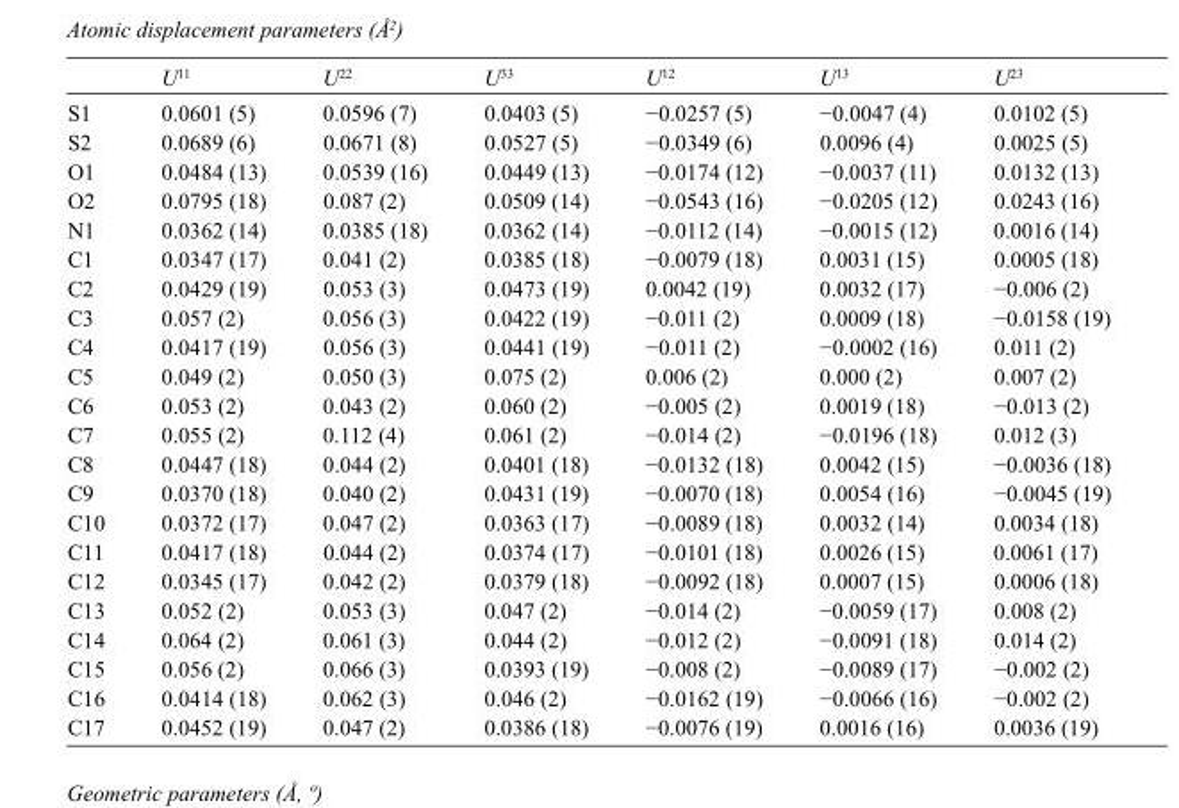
<table><thead><tr><td></td><td>U<sup>11</sup></td><td>U<sup>22</sup></td><td>U<sup>33</sup></td><td>U<sup>12</sup></td><td>U<sup>13</sup></td><td>U<sup>23</sup></td></tr></thead><tbody><tr><td>S1</td><td>0.0601 (5)</td><td>0.0596 (7)</td><td>0.0403 (5)</td><td>−0.0257 (5)</td><td>−0.0047 (4)</td><td>0.0102 (5)</td></tr><tr><td>S2</td><td>0.0689 (6)</td><td>0.0671 (8)</td><td>0.0527 (5)</td><td>−0.0349 (6)</td><td>0.0096 (4)</td><td>0.0025 (5)</td></tr><tr><td>O1</td><td>0.0484 (13)</td><td>0.0539 (16)</td><td>0.0449 (13)</td><td>−0.0174 (12)</td><td>−0.0037 (11)</td><td>0.0132 (13)</td></tr><tr><td>O2</td><td>0.0795 (18)</td><td>0.087 (2)</td><td>0.0509 (14)</td><td>−0.0543 (16)</td><td>−0.0205 (12)</td><td>0.0243 (16)</td></tr><tr><td>N1</td><td>0.0362 (14)</td><td>0.0385 (18)</td><td>0.0362 (14)</td><td>−0.0112 (14)</td><td>−0.0015 (12)</td><td>0.0016 (14)</td></tr><tr><td>C1</td><td>0.0347 (17)</td><td>0.041 (2)</td><td>0.0385 (18)</td><td>−0.0079 (18)</td><td>0.0031 (15)</td><td>0.0005 (18)</td></tr><tr><td>C2</td><td>0.0429 (19)</td><td>0.053 (3)</td><td>0.0473 (19)</td><td>0.0042 (19)</td><td>0.0032 (17)</td><td>−0.006 (2)</td></tr><tr><td>C3</td><td>0.057 (2)</td><td>0.056 (3)</td><td>0.0422 (19)</td><td>−0.011 (2)</td><td>0.0009 (18)</td><td>−0.0158 (19)</td></tr><tr><td>C4</td><td>0.0417 (19)</td><td>0.056 (3)</td><td>0.0441 (19)</td><td>−0.011 (2)</td><td>−0.0002 (16)</td><td>0.011 (2)</td></tr><tr><td>C5</td><td>0.049 (2)</td><td>0.050 (3)</td><td>0.075 (2)</td><td>0.006 (2)</td><td>0.000 (2)</td><td>0.007 (2)</td></tr><tr><td>C6</td><td>0.053 (2)</td><td>0.043 (2)</td><td>0.060 (2)</td><td>−0.005 (2)</td><td>0.0019 (18)</td><td>−0.013 (2)</td></tr><tr><td>C7</td><td>0.055 (2)</td><td>0.112 (4)</td><td>0.061 (2)</td><td>−0.014 (2)</td><td>−0.0196 (18)</td><td>0.012 (3)</td></tr><tr><td>C8</td><td>0.0447 (18)</td><td>0.044 (2)</td><td>0.0401 (18)</td><td>−0.0132 (18)</td><td>0.0042 (15)</td><td>−0.0036 (18)</td></tr><tr><td>C9</td><td>0.0370 (18)</td><td>0.040 (2)</td><td>0.0431 (19)</td><td>−0.0070 (18)</td><td>0.0054 (16)</td><td>−0.0045 (19)</td></tr><tr><td>C10</td><td>0.0372 (17)</td><td>0.047 (2)</td><td>0.0363 (17)</td><td>−0.0089 (18)</td><td>0.0032 (14)</td><td>0.0034 (18)</td></tr><tr><td>C11</td><td>0.0417 (18)</td><td>0.044 (2)</td><td>0.0374 (17)</td><td>−0.0101 (18)</td><td>0.0026 (15)</td><td>0.0061 (17)</td></tr><tr><td>C12</td><td>0.0345 (17)</td><td>0.042 (2)</td><td>0.0379 (18)</td><td>−0.0092 (18)</td><td>0.0007 (15)</td><td>0.0006 (18)</td></tr><tr><td>C13</td><td>0.052 (2)</td><td>0.053 (3)</td><td>0.047 (2)</td><td>−0.014 (2)</td><td>−0.0059 (17)</td><td>0.008 (2)</td></tr><tr><td>C14</td><td>0.064 (2)</td><td>0.061 (3)</td><td>0.044 (2)</td><td>−0.012 (2)</td><td>−0.0091 (18)</td><td>0.014 (2)</td></tr><tr><td>C15</td><td>0.056 (2)</td><td>0.066 (3)</td><td>0.0393 (19)</td><td>−0.008 (2)</td><td>−0.0089 (17)</td><td>−0.002 (2)</td></tr><tr><td>C16</td><td>0.0414 (18)</td><td>0.062 (3)</td><td>0.046 (2)</td><td>−0.0162 (19)</td><td>−0.0066 (16)</td><td>−0.002 (2)</td></tr><tr><td>C17</td><td>0.0452 (19)</td><td>0.047 (2)</td><td>0.0386 (18)</td><td>−0.0076 (19)</td><td>0.0016 (16)</td><td>0.0036 (19)</td></tr></tbody></table>